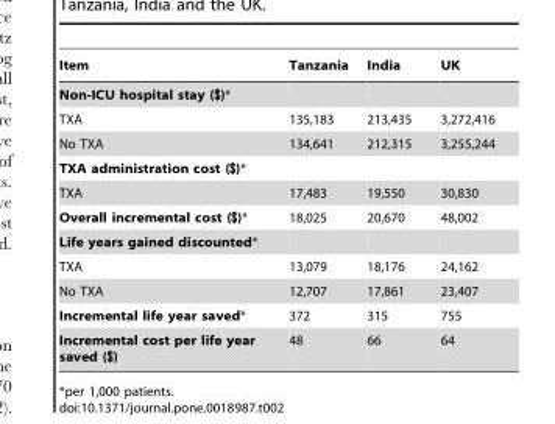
<table><thead><tr><td>Item</td><td>Tanzania</td><td>India</td><td>UK</td></tr></thead><tbody><tr><td colspan="4">Non-ICU hospital stay ($)*</td></tr><tr><td>TXA</td><td>135,183</td><td>213,435</td><td>3,272,416</td></tr><tr><td>No TXA</td><td>134,641</td><td>212,315</td><td>3,255,244</td></tr><tr><td colspan="4">TXA administration cost ($)*</td></tr><tr><td>TXA</td><td>17,483</td><td>19,550</td><td>30,830</td></tr><tr><td>Overall incremental cost ($)*</td><td>18,025</td><td>20,670</td><td>48,002</td></tr><tr><td colspan="4">Life years gained discounted*</td></tr><tr><td>TXA</td><td>13,079</td><td>18,176</td><td>24,162</td></tr><tr><td>No TXA</td><td>12,707</td><td>17,861</td><td>23,407</td></tr><tr><td>Incremental life year saved*</td><td>372</td><td>315</td><td>755</td></tr><tr><td>Incremental cost per life year saved ($)</td><td>48</td><td>66</td><td>64</td></tr></tbody></table>